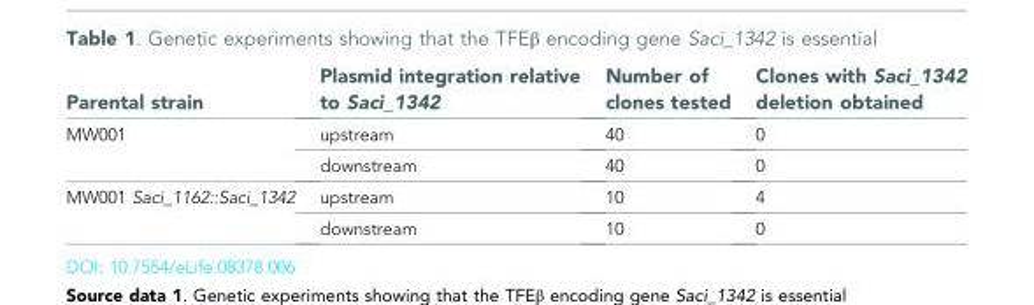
<table><thead><tr><td>Parental strain</td><td>Plasmid integration relative to Saci_1342</td><td>Number of clones tested</td><td>Clones with Saci_1342 deletion obtained</td></tr></thead><tbody><tr><td rowspan="2">MW001</td><td>upstream</td><td>40</td><td>0</td></tr><tr><td>downstream</td><td>40</td><td>0</td></tr><tr><td rowspan="2">MW001 Saci_1162::Saci_1342</td><td>upstream</td><td>10</td><td>4</td></tr><tr><td>downstream</td><td>10</td><td>0</td></tr></tbody></table>